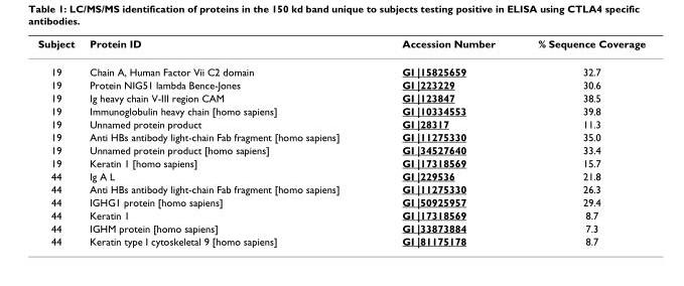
<table><thead><tr><td>Subject</td><td>Protein ID</td><td>Accession Number</td><td>% Sequence Coverage</td></tr></thead><tbody><tr><td>19</td><td>Chain A, Human Factor Vii C2 domain</td><td>GI |15825659</td><td>32.7</td></tr><tr><td>19</td><td>Protein NIG51 lambda Bence-Jones</td><td>GI |223229</td><td>30.6</td></tr><tr><td>19</td><td>Ig heavy chain V-III region CAM</td><td>GI |123847</td><td>38.5</td></tr><tr><td>19</td><td>Immunoglobulin heavy chain [homo sapiens]</td><td>GI |10334553</td><td>39.8</td></tr><tr><td>19</td><td>Unnamed protein product</td><td>GI |28317</td><td>11.3</td></tr><tr><td>19</td><td>Anti HBs antibody light-chain Fab fragment [homo sapiens]</td><td>GI |11275330</td><td>35.0</td></tr><tr><td>19</td><td>Unnamed protein product [homo sapiens]</td><td>GI |34527640</td><td>33.4</td></tr><tr><td>19</td><td>Keratin 1 [homo sapiens]</td><td>GI |17318569</td><td>15.7</td></tr><tr><td>44</td><td>Ig A L</td><td>GI |229536</td><td>21.8</td></tr><tr><td>44</td><td>Anti HBs antibody light-chain Fab fragment [homo sapiens]</td><td>GI |11275330</td><td>26.3</td></tr><tr><td>44</td><td>IGHG1 protein [homo sapiens]</td><td>GI |50925957</td><td>29.4</td></tr><tr><td>44</td><td>Keratin 1</td><td>GI |17318569</td><td>8.7</td></tr><tr><td>44</td><td>IGHM protein [homo sapiens]</td><td>GI |33873884</td><td>7.3</td></tr><tr><td>44</td><td>Keratin type I cytoskeletal 9 [homo sapiens]</td><td>GI |81175178</td><td>8.7</td></tr></tbody></table>